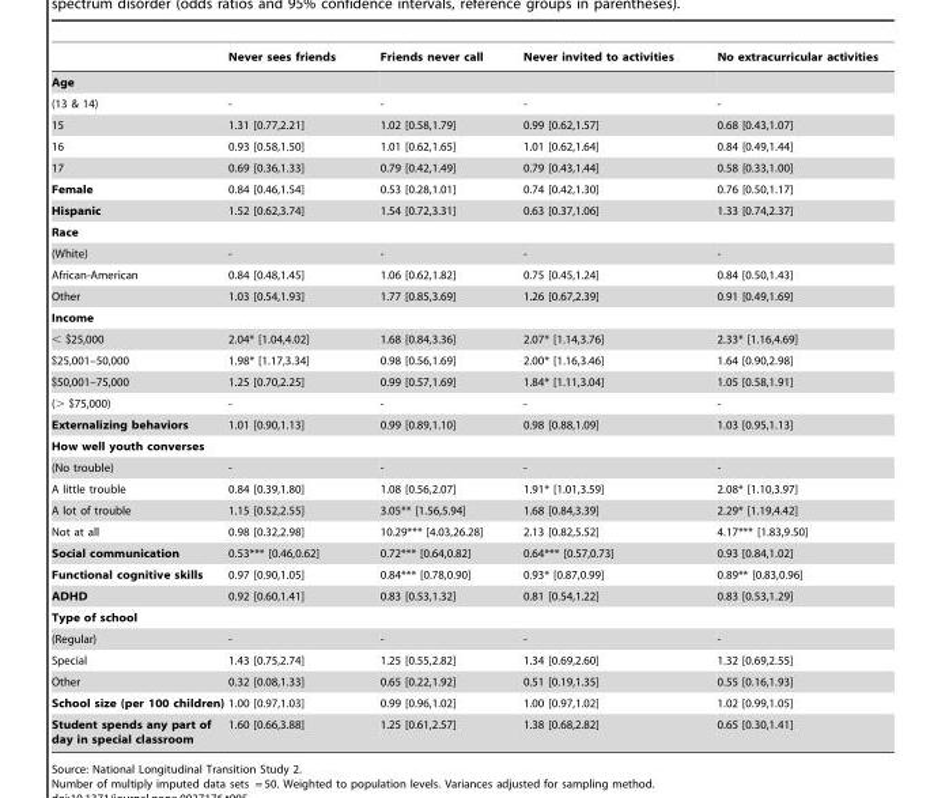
<table><thead><tr><td></td><td>Never sees friends</td><td>Friends never call</td><td>Never invited to activities</td><td>No extracurricular activities</td></tr></thead><tbody><tr><td colspan="5">Age</td></tr><tr><td>(13 &amp; 14)</td><td>-</td><td>-</td><td>-</td><td>-</td></tr><tr><td>15</td><td>1.31 [0.77,2.21]</td><td>1.02 [0.58,1.79]</td><td>0.99 [0.62,1.57]</td><td>0.68 [0.43,1.07]</td></tr><tr><td>16</td><td>0.93 [0.58,1.50]</td><td>1.01 [0.62,1.65]</td><td>1.01 [0.62,1.64]</td><td>0.84 [0.49,1.44]</td></tr><tr><td>17</td><td>0.69 [0.36,1.33]</td><td>0.79 [0.42,1.49]</td><td>0.79 [0.43,1.44]</td><td>0.58 [0.33,1.00]</td></tr><tr><td>Female</td><td>0.84 [0.46,1.54]</td><td>0.53 [0.28,1.01]</td><td>0.74 [0.42,1.30]</td><td>0.76 [0.50,1.17]</td></tr><tr><td>Hispanic</td><td>1.52 [0.62,3.74]</td><td>1.54 [0.72,3.31]</td><td>0.63 [0.37,1.06]</td><td>1.33 [0.74,2.37]</td></tr><tr><td colspan="5">Race</td></tr><tr><td>(White)</td><td>-</td><td>-</td><td>-</td><td>-</td></tr><tr><td>African-American</td><td>0.84 [0.48,1.45]</td><td>1.06 [0.62,1.82]</td><td>0.75 [0.45,1.24]</td><td>0.84 [0.50,1.43]</td></tr><tr><td>Other</td><td>1.03 [0.54,1.93]</td><td>1.77 [0.85,3.69]</td><td>1.26 [0.67,2.39]</td><td>0.91 [0.49,1.69]</td></tr><tr><td colspan="5">Income</td></tr><tr><td>&lt; $25,000</td><td>2.04* [1.04,4.02]</td><td>1.68 [0.84,3.36]</td><td>2.07* [1.14,3.76]</td><td>2.33* [1.16,4.69]</td></tr><tr><td>$25,001–50,000</td><td>1.98* [1.17,3.34]</td><td>0.98 [0.56,1.69]</td><td>2.00* [1.16,3.46]</td><td>1.64 [0.90,2.98]</td></tr><tr><td>$50,001–75,000</td><td>1.25 [0.70,2.25]</td><td>0.99 [0.57,1.69]</td><td>1.84* [1.11,3.04]</td><td>1.05 [0.58,1.91]</td></tr><tr><td>(&gt; $75,000)</td><td>-</td><td>-</td><td>-</td><td>-</td></tr><tr><td>Externalizing behaviors</td><td>1.01 [0.90,1.13]</td><td>0.99 [0.89,1.10]</td><td>0.98 [0.88,1.09]</td><td>1.03 [0.95,1.13]</td></tr><tr><td colspan="5">How well youth converses</td></tr><tr><td>(No trouble)</td><td>-</td><td>-</td><td>-</td><td>-</td></tr><tr><td>A little trouble</td><td>0.84 [0.39,1.80]</td><td>1.08 [0.56,2.07]</td><td>1.91* [1.01,3.59]</td><td>2.08* [1.10,3.97]</td></tr><tr><td>A lot of trouble</td><td>1.15 [0.52,2.55]</td><td>3.05** [1.56,5.94]</td><td>1.68 [0.84,3.39]</td><td>2.29* [1.19,4.42]</td></tr><tr><td>Not at all</td><td>0.98 [0.32,2.98]</td><td>10.29*** [4.03,26.28]</td><td>2.13 [0.82,5.52]</td><td>4.17*** [1.83,9.50]</td></tr><tr><td>Social communication</td><td>0.53*** [0.46,0.62]</td><td>0.72*** [0.64,0.82]</td><td>0.64*** [0.57,0.73]</td><td>0.93 [0.84,1.02]</td></tr><tr><td>Functional cognitive skills</td><td>0.97 [0.90,1.05]</td><td>0.84*** [0.78,0.90]</td><td>0.93* [0.87,0.99]</td><td>0.89** [0.83,0.96]</td></tr><tr><td>ADHD</td><td>0.92 [0.60,1.41]</td><td>0.83 [0.53,1.32]</td><td>0.81 [0.54,1.22]</td><td>0.83 [0.53,1.29]</td></tr><tr><td colspan="5">Type of school</td></tr><tr><td>(Regular)</td><td>-</td><td>-</td><td>-</td><td>-</td></tr><tr><td>Special</td><td>1.43 [0.75,2.74]</td><td>1.25 [0.55,2.82]</td><td>1.34 [0.69,2.60]</td><td>1.32 [0.69,2.55]</td></tr><tr><td>Other</td><td>0.32 [0.08,1.33]</td><td>0.65 [0.22,1.92]</td><td>0.51 [0.19,1.35]</td><td>0.55 [0.16,1.93]</td></tr><tr><td>School size (per 100 children)</td><td>1.00 [0.97,1.03]</td><td>0.99 [0.96,1.02]</td><td>1.00 [0.97,1.02]</td><td>1.02 [0.99,1.05]</td></tr><tr><td>Student spends any part of day in special classroom</td><td>1.60 [0.66,3.88]</td><td>1.25 [0.61,2.57]</td><td>1.38 [0.68,2.82]</td><td>0.65 [0.30,1.41]</td></tr></tbody></table>